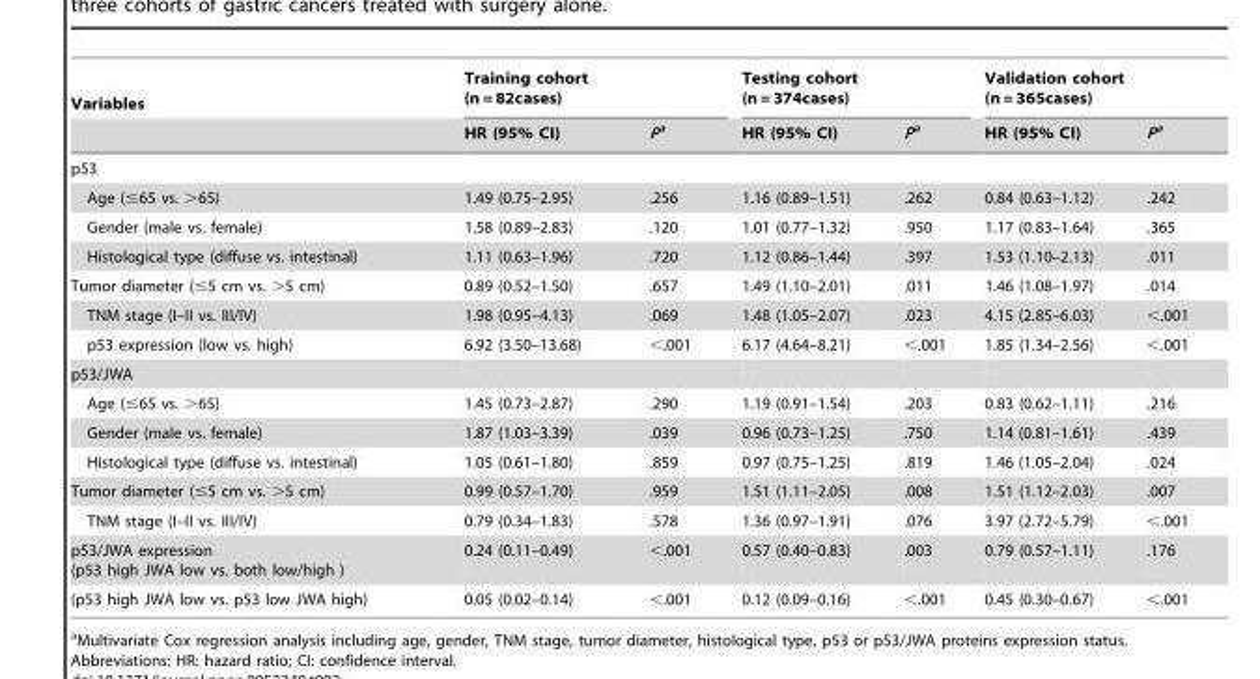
<table><thead><tr><td rowspan="2">Variables</td><td colspan="2">Training cohort (n = 82cases)</td><td colspan="2">Testing cohort (n = 374cases)</td><td colspan="2">Validation cohort (n = 365cases)</td></tr><tr><td>HR (95% CI)</td><td>Pa</td><td>HR (95% CI)</td><td>Pa</td><td>HR (95% CI)</td><td>Pa</td></tr></thead><tbody><tr><td colspan="7">p53</td></tr><tr><td>Age (≤65 vs. &gt;65)</td><td>1.49 (0.75–2.95)</td><td>.256</td><td>1.16 (0.89–1.51)</td><td>.262</td><td>0.84 (0.63–1.12)</td><td>.242</td></tr><tr><td>Gender (male vs. female)</td><td>1.58 (0.89–2.83)</td><td>.120</td><td>1.01 (0.77–1.32)</td><td>.950</td><td>1.17 (0.83–1.64)</td><td>.365</td></tr><tr><td>Histological type (diffuse vs. intestinal)</td><td>1.11 (0.63–1.96)</td><td>.720</td><td>1.12 (0.86–1.44)</td><td>.397</td><td>1.53 (1.10–2.13)</td><td>.011</td></tr><tr><td>Tumor diameter (≤5 cm vs. &gt;5 cm)</td><td>0.89 (0.52–1.50)</td><td>.657</td><td>1.49 (1.10–2.01)</td><td>.011</td><td>1.46 (1.08–1.97)</td><td>.014</td></tr><tr><td>TNM stage (I–II vs. III/IV)</td><td>1.98 (0.95–4.13)</td><td>.069</td><td>1.48 (1.05–2.07)</td><td>.023</td><td>4.15 (2.85–6.03)</td><td>&lt;.001</td></tr><tr><td>p53 expression (low vs. high)</td><td>6.92 (3.50–13.68)</td><td>&lt;.001</td><td>6.17 (4.64–8.21)</td><td>&lt;.001</td><td>1.85 (1.34–2.56)</td><td>&lt;.001</td></tr><tr><td colspan="7">p53/JWA</td></tr><tr><td>Age (≤65 vs. &gt;65)</td><td>1.45 (0.73–2.87)</td><td>.290</td><td>1.19 (0.91–1.54)</td><td>.203</td><td>0.83 (0.62–1.11)</td><td>.216</td></tr><tr><td>Gender (male vs. female)</td><td>1.87 (1.03–3.39)</td><td>.039</td><td>0.96 (0.73–1.25)</td><td>.750</td><td>1.14 (0.81–1.61)</td><td>.439</td></tr><tr><td>Histological type (diffuse vs. intestinal)</td><td>1.05 (0.61–1.80)</td><td>.859</td><td>0.97 (0.75–1.25)</td><td>.819</td><td>1.46 (1.05–2.04)</td><td>.024</td></tr><tr><td>Tumor diameter (≤5 cm vs. &gt;5 cm)</td><td>0.99 (0.57–1.70)</td><td>.959</td><td>1.51 (1.11–2.05)</td><td>.008</td><td>1.51 (1.12–2.03)</td><td>.007</td></tr><tr><td>TNM stage (I–II vs. III/IV)</td><td>0.79 (0.34–1.83)</td><td>.578</td><td>1.36 (0.97–1.91)</td><td>.076</td><td>3.97 (2.72–5.79)</td><td>&lt;.001</td></tr><tr><td>p53/JWA expression (p53 high JWA low vs. both low/high )</td><td>0.24 (0.11–0.49)</td><td>&lt;.001</td><td>0.57 (0.40–0.83)</td><td>.003</td><td>0.79 (0.57–1.11)</td><td>.176</td></tr><tr><td>(p53 high JWA low vs. p53 low JWA high)</td><td>0.05 (0.02–0.14)</td><td>&lt;.001</td><td>0.12 (0.09–0.16)</td><td>&lt;.001</td><td>0.45 (0.30–0.67)</td><td>&lt;.001</td></tr></tbody></table>